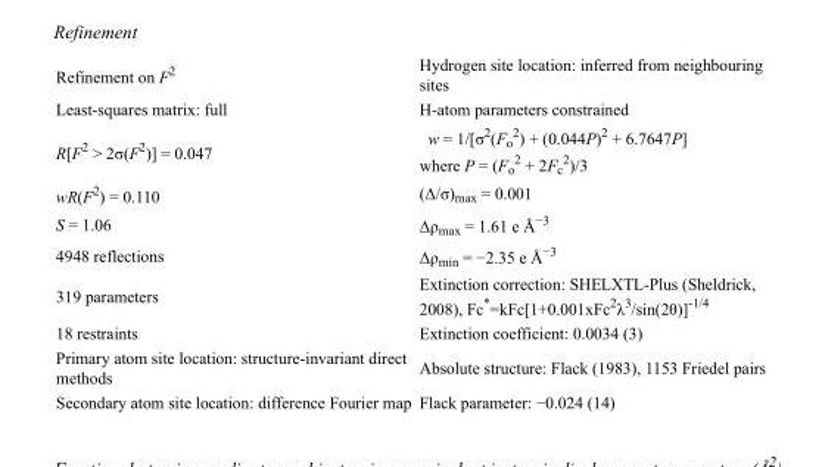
<table><tbody><tr><td>Refinement on F<sup>2</sup></td><td>Hydrogen site location: inferred from neighbouring sites</td></tr><tr><td>Least-squares matrix: full</td><td>H-atom parameters constrained</td></tr><tr><td>R[F<sup>2</sup> &gt; 2σ(F<sup>2</sup>)] = 0.047</td><td>w = 1/[σ<sup>2</sup>(F<sub>o</sub> <sup>2</sup>) + (0.044P)<sup>2</sup> + 6.7647P] where P = (F<sub>o</sub> <sup>2</sup> + 2F<sub>c</sub> <sup>2</sup>)/3</td></tr><tr><td>wR(F<sup>2</sup>) = 0.110</td><td>(Δ/σ)<sub>max</sub> = 0.001</td></tr><tr><td>S = 1.06</td><td>Δρ<sub>max</sub> = 1.61 e Å<sup>−3</sup></td></tr><tr><td>4948 reflections</td><td>Δρ<sub>min</sub> = −2.35 e Å<sup>−3</sup></td></tr><tr><td>319 parameters</td><td>Extinction correction: SHELXTL-Plus (Sheldrick, 2008), Fc*=kFc[1+0.001xFc<sup>2</sup>λ<sup>3</sup>/sin(2θ)]<sup>-1/4</sup></td></tr><tr><td>18 restraints</td><td>Extinction coefficient: 0.0034 (3)</td></tr><tr><td>Primary atom site location: structure-invariant direct methods</td><td>Absolute structure: Flack (1983), 1153 Friedel pairs</td></tr><tr><td>Secondary atom site location: difference Fourier map</td><td>Flack parameter: −0.024 (14)</td></tr></tbody></table>